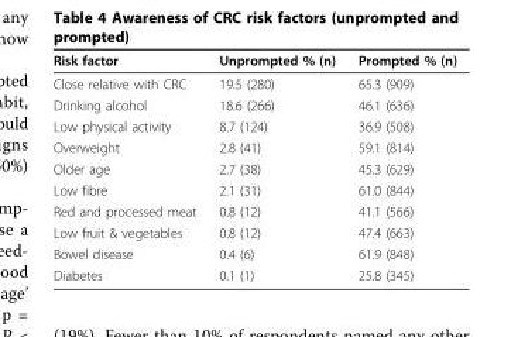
<table><thead><tr><td>Risk factor</td><td>Unprompted % (n)</td><td>Prompted % (n)</td></tr></thead><tbody><tr><td>Close relative with CRC</td><td>19.5 (280)</td><td>65.3 (909)</td></tr><tr><td>Drinking alcohol</td><td>18.6 (266)</td><td>46.1 (636)</td></tr><tr><td>Low physical activity</td><td>8.7 (124)</td><td>36.9 (508)</td></tr><tr><td>Overweight</td><td>2.8 (41)</td><td>59.1 (814)</td></tr><tr><td>Older age</td><td>2.7 (38)</td><td>45.3 (629)</td></tr><tr><td>Low fibre</td><td>2.1 (31)</td><td>61.0 (844)</td></tr><tr><td>Red and processed meat</td><td>0.8 (12)</td><td>41.1 (566)</td></tr><tr><td>Low fruit &amp; vegetables</td><td>0.8 (12)</td><td>47.4 (663)</td></tr><tr><td>Bowel disease</td><td>0.4 (6)</td><td>61.9 (848)</td></tr><tr><td>Diabetes</td><td>0.1 (1)</td><td>25.8 (345)</td></tr></tbody></table>